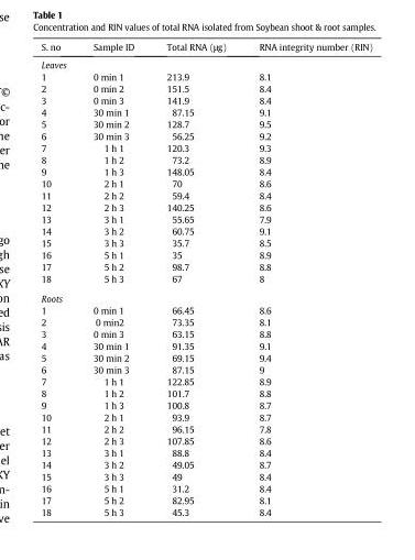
<table><thead><tr><td>S. no</td><td>Sample ID</td><td>Total RNA (μg)</td><td>RNA integrity number (RIN)</td></tr></thead><tbody><tr><td colspan="4">Leaves</td></tr><tr><td>1</td><td>0 min 1</td><td>213.9</td><td>8.1</td></tr><tr><td>2</td><td>0 min 2</td><td>151.5</td><td>8.4</td></tr><tr><td>3</td><td>0 min 3</td><td>141.9</td><td>8.4</td></tr><tr><td>4</td><td>30 min 1</td><td>87.15</td><td>9.1</td></tr><tr><td>5</td><td>30 min 2</td><td>128.7</td><td>9.5</td></tr><tr><td>6</td><td>30 min 3</td><td>56.25</td><td>9.2</td></tr><tr><td>7</td><td>1 h 1</td><td>120.3</td><td>9.3</td></tr><tr><td>8</td><td>1 h 2</td><td>73.2</td><td>8.9</td></tr><tr><td>9</td><td>1 h 3</td><td>148.05</td><td>8.4</td></tr><tr><td>10</td><td>2 h 1</td><td>70</td><td>8.6</td></tr><tr><td>11</td><td>2 h 2</td><td>59.4</td><td>8.4</td></tr><tr><td>12</td><td>2 h 3</td><td>140.25</td><td>8.6</td></tr><tr><td>13</td><td>3 h 1</td><td>55.65</td><td>7.9</td></tr><tr><td>14</td><td>3 h 2</td><td>60.75</td><td>9.1</td></tr><tr><td>15</td><td>3 h 3</td><td>35.7</td><td>8.5</td></tr><tr><td>16</td><td>5 h 1</td><td>35</td><td>8.9</td></tr><tr><td>17</td><td>5 h 2</td><td>98.7</td><td>8.8</td></tr><tr><td>18</td><td>5 h 3</td><td>67</td><td>8</td></tr><tr><td colspan="4">Roots</td></tr><tr><td>1</td><td>0 min 1</td><td>66.45</td><td>8.6</td></tr><tr><td>2</td><td>0 min2</td><td>73.35</td><td>8.1</td></tr><tr><td>3</td><td>0 min 3</td><td>63.15</td><td>8.8</td></tr><tr><td>4</td><td>30 min 1</td><td>91.35</td><td>9.1</td></tr><tr><td>5</td><td>30 min 2</td><td>69.15</td><td>9.4</td></tr><tr><td>6</td><td>30 min 3</td><td>87.15</td><td>9</td></tr><tr><td>7</td><td>1 h 1</td><td>122.85</td><td>8.9</td></tr><tr><td>8</td><td>1 h 2</td><td>101.7</td><td>8.8</td></tr><tr><td>9</td><td>1 h 3</td><td>100.8</td><td>8.7</td></tr><tr><td>10</td><td>2 h 1</td><td>93.9</td><td>8.7</td></tr><tr><td>11</td><td>2 h 2</td><td>96.15</td><td>7.8</td></tr><tr><td>12</td><td>2 h 3</td><td>107.85</td><td>8.6</td></tr><tr><td>13</td><td>3 h 1</td><td>88.8</td><td>8.4</td></tr><tr><td>14</td><td>3 h 2</td><td>49.05</td><td>8.7</td></tr><tr><td>15</td><td>3 h 3</td><td>49</td><td>8.4</td></tr><tr><td>16</td><td>5 h 1</td><td>31.2</td><td>8.4</td></tr><tr><td>17</td><td>5 h 2</td><td>82.95</td><td>8.1</td></tr><tr><td>18</td><td>5 h 3</td><td>45.3</td><td>8.4</td></tr></tbody></table>